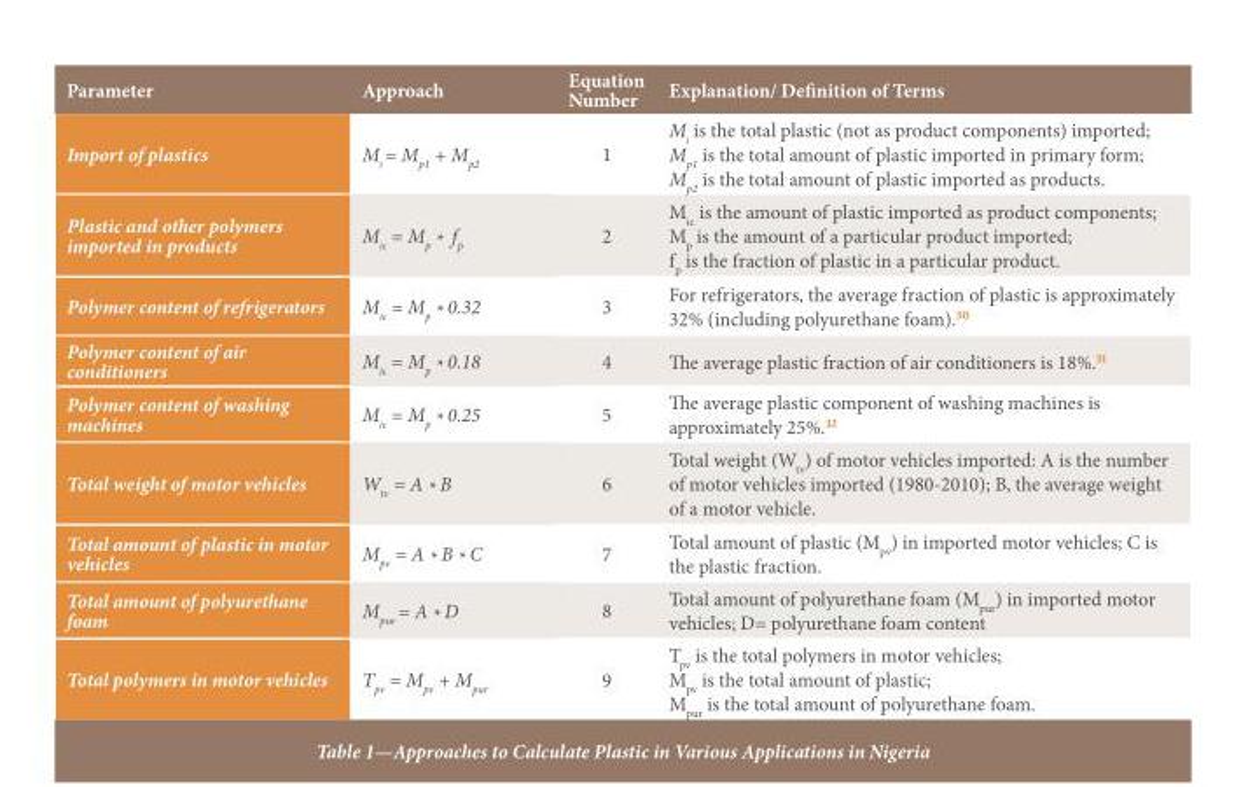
<table><thead><tr><td>Parameter</td><td>Approach</td><td>Equation Number</td><td>Explanation/ Definition of Terms</td></tr></thead><tbody><tr><td>Import of plastics</td><td>M<sub>i</sub> = M<sub>p1</sub> + M<sub>p2</sub></td><td>1</td><td>M<sub>i</sub> is the total plastic (not as product components) imported; M<sub>p1</sub> is the total amount of plastic imported in primary form; M<sub>p2</sub> is the total amount of plastic imported as products.</td></tr><tr><td>Plastic and other polymers imported in products</td><td>M<sub>ic</sub> = M<sub>p</sub> * f<sub>p</sub></td><td>2</td><td>M<sub>ic</sub> is the amount of plastic imported as product components; M<sub>p</sub> is the amount of a particular product imported; f<sub>p</sub> is the fraction of plastic in a particular product.</td></tr><tr><td>Polymer content of refrigerators</td><td>M<sub>ic</sub> = M<sub>p</sub> * 0.32</td><td>3</td><td>For refrigerators, the average fraction of plastic is approximately 32% (including polyurethane foam).<sup>30</sup></td></tr><tr><td>Polymer content of air conditioners</td><td>M<sub>ic</sub> = M<sub>p</sub> * 0.18</td><td>4</td><td>The average plastic fraction of air conditioners is 18%.<sup>31</sup></td></tr><tr><td>Polymer content of washing machines</td><td>M<sub>ic</sub> = M<sub>p</sub> * 0.25</td><td>5</td><td>The average plastic component of washing machines is approximately 25%.<sup>32</sup></td></tr><tr><td>Total weight of motor vehicles</td><td>W<sub>tv</sub> = A * B</td><td>6</td><td>Total weight (W<sub>tv</sub>) of motor vehicles imported: A is the number of motor vehicles imported (1980-2010); B, the average weight of a motor vehicle.</td></tr><tr><td>Total amount of plastic in motor vehicles</td><td>M<sub>pv</sub> = A * B * C</td><td>7</td><td>Total amount of plastic (M<sub>pv</sub>) in imported motor vehicles; C is the plastic fraction.</td></tr><tr><td>Total amount of polyurethane foam</td><td>M<sub>pur</sub> = A * D</td><td>8</td><td>Total amount of polyurethane foam (M<sub>pur</sub>) in imported motor vehicles; D= polyurethane foam content</td></tr><tr><td>Total polymers in motor vehicles</td><td>T<sub>pv</sub> = M<sub>pv</sub> + M<sub>pur</sub></td><td>9</td><td>T<sub>pv</sub> is the total polymers in motor vehicles; M<sub>pv</sub> is the total amount of plastic; M<sub>pur</sub> is the total amount of polyurethane foam.</td></tr></tbody></table>